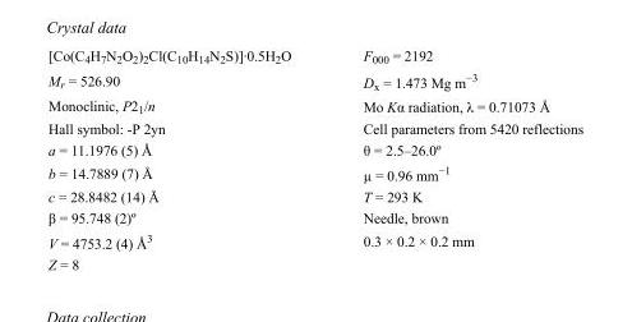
<table><tbody><tr><td>[Co(C<sub>4</sub>H<sub>7</sub>N<sub>2</sub>O<sub>2</sub>)<sub>2</sub>Cl(C<sub>10</sub>H<sub>14</sub>N<sub>2</sub>S)]·0.5H<sub>2</sub>O</td><td>F000 = 2192</td></tr><tr><td>M<sub>r</sub> = 526.90</td><td>D<sub>x</sub> = 1.473 Mg m<sup>−3</sup></td></tr><tr><td>Monoclinic, P2<sub>1</sub>/n</td><td>Mo Kα radiation, λ = 0.71073 Å</td></tr><tr><td>Hall symbol: -P 2yn</td><td>Cell parameters from 5420 reflections</td></tr><tr><td>a = 11.1976 (5) Å</td><td>θ = 2.5–26.0º</td></tr><tr><td>b = 14.7889 (7) Å</td><td>µ = 0.96 mm<sup>−1</sup></td></tr><tr><td>c = 28.8482 (14) Å</td><td>T = 293 K</td></tr><tr><td>β = 95.748 (2)º</td><td>Needle, brown</td></tr><tr><td>V = 4753.2 (4) Å<sup>3</sup></td><td>0.3 × 0.2 × 0.2 mm</td></tr><tr><td>Z = 8</td><td></td></tr></tbody></table>